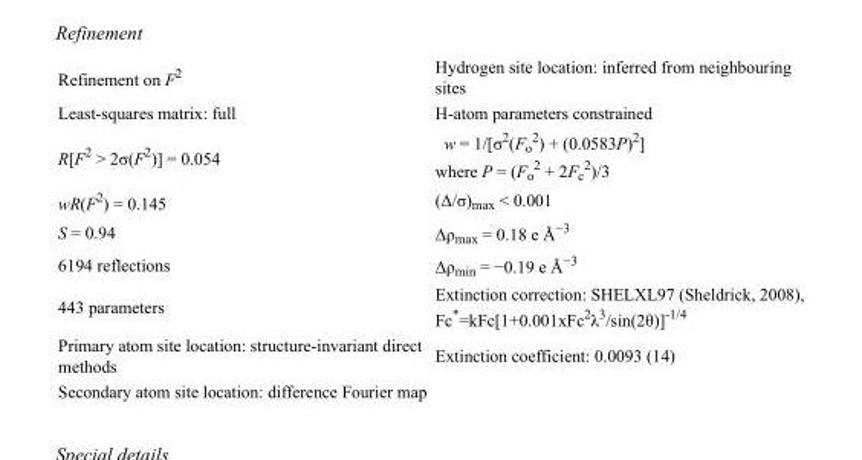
<table><tbody><tr><td>Refinement on F<sup>2</sup></td><td>Hydrogen site location: inferred from neighbouring sites</td></tr><tr><td>Least-squares matrix: full</td><td>H-atom parameters constrained</td></tr><tr><td>R[F<sup>2</sup> &gt; 2σ(F<sup>2</sup>)] = 0.054</td><td>w = 1/[σ<sup>2</sup>(F<sub>o</sub> <sup>2</sup>) + (0.0583P)<sup>2</sup>] where P = (F<sub>o</sub> <sup>2</sup> + 2F<sub>c</sub> <sup>2</sup>)/3</td></tr><tr><td>wR(F<sup>2</sup>) = 0.145</td><td>(Δ/σ)<sub>max</sub> &lt; 0.001</td></tr><tr><td>S = 0.94</td><td>Δρ<sub>max</sub> = 0.18 e Å<sup>−3</sup></td></tr><tr><td>6194 reflections</td><td>Δρ<sub>min</sub> = −0.19 e Å<sup>−3</sup></td></tr><tr><td>443 parameters</td><td>Extinction correction: SHELXL97 (Sheldrick, 2008), Fc*=kFc[1+0.001xFc<sup>2</sup>λ<sup>3</sup>/sin(2θ)]<sup>-1/4</sup></td></tr><tr><td>Primary atom site location: structure-invariant direct methods</td><td>Extinction coefficient: 0.0093 (14)</td></tr><tr><td>Secondary atom site location: difference Fourier map</td><td></td></tr></tbody></table>